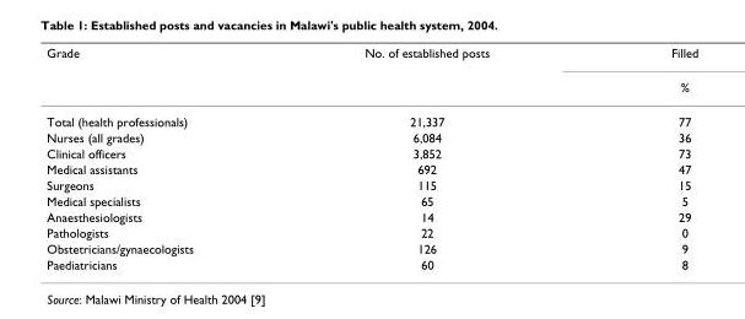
<table><thead><tr><td rowspan="2">Grade</td><td rowspan="2">No. of established posts</td><td rowspan="2">Filled %</td></tr><tr></tr></thead><tbody><tr><td>Total (health professionals)</td><td>21,337</td><td>77</td></tr><tr><td>Nurses (all grades)</td><td>6,084</td><td>36</td></tr><tr><td>Clinical officers</td><td>3,852</td><td>73</td></tr><tr><td>Medical assistants</td><td>692</td><td>47</td></tr><tr><td>Surgeons</td><td>115</td><td>15</td></tr><tr><td>Medical specialists</td><td>65</td><td>5</td></tr><tr><td>Anaesthesiologists</td><td>14</td><td>29</td></tr><tr><td>Pathologists</td><td>22</td><td>0</td></tr><tr><td>Obstetricians/gynaecologists</td><td>126</td><td>9</td></tr><tr><td>Paediatricians</td><td>60</td><td>8</td></tr></tbody></table>